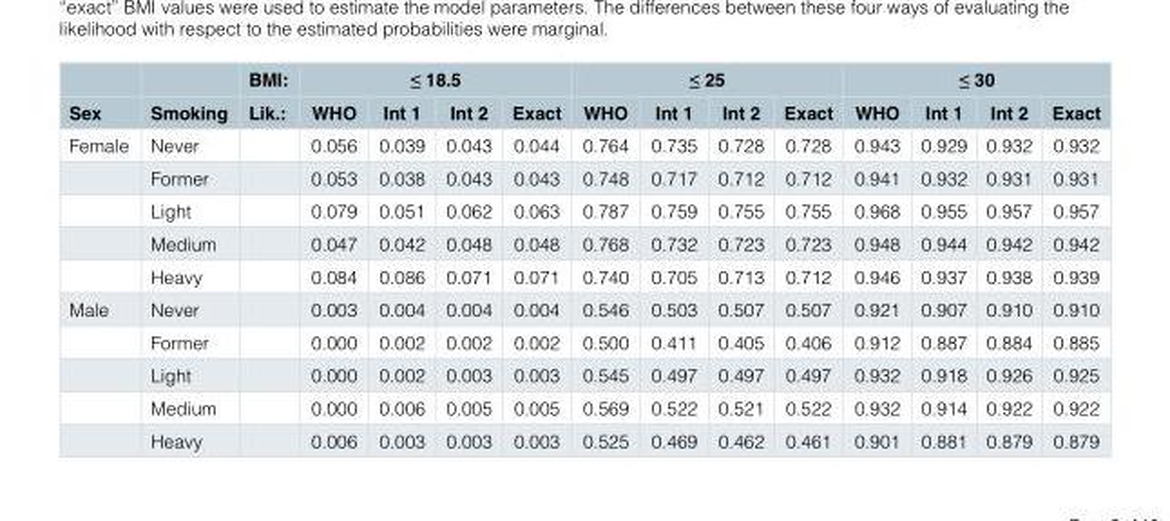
<table><thead><tr><td rowspan="2">Sex</td><td rowspan="2">Smoking</td><td rowspan="2">BMI: Lik.:</td><td colspan="4">≤ 18.5</td><td colspan="4">≤ 25</td><td colspan="4">≤ 30</td></tr><tr><td>WHO</td><td>Int 1</td><td>Int 2</td><td>Exact</td><td>WHO</td><td>Int 1</td><td>Int 2</td><td>Exact</td><td>WHO</td><td>Int 1</td><td>Int 2</td><td>Exact</td></tr></thead><tbody><tr><td rowspan="5">Female</td><td>Never</td><td></td><td>0.056</td><td>0.039</td><td>0.043</td><td>0.044</td><td>0.764</td><td>0.735</td><td>0.728</td><td>0.728</td><td>0.943</td><td>0.929</td><td>0.932</td><td>0.932</td></tr><tr><td>Former</td><td></td><td>0.053</td><td>0.038</td><td>0.043</td><td>0.043</td><td>0.748</td><td>0.717</td><td>0.712</td><td>0.712</td><td>0.941</td><td>0.932</td><td>0.931</td><td>0.931</td></tr><tr><td>Light</td><td></td><td>0.079</td><td>0.051</td><td>0.062</td><td>0.063</td><td>0.787</td><td>0.759</td><td>0.755</td><td>0.755</td><td>0.968</td><td>0.955</td><td>0.957</td><td>0.957</td></tr><tr><td>Medium</td><td></td><td>0.047</td><td>0.042</td><td>0.048</td><td>0.048</td><td>0.768</td><td>0.732</td><td>0.723</td><td>0.723</td><td>0.948</td><td>0.944</td><td>0.942</td><td>0.942</td></tr><tr><td>Heavy</td><td></td><td>0.084</td><td>0.086</td><td>0.071</td><td>0.071</td><td>0.740</td><td>0.705</td><td>0.713</td><td>0.712</td><td>0.946</td><td>0.937</td><td>0.938</td><td>0.939</td></tr><tr><td rowspan="5">Male</td><td>Never</td><td></td><td>0.003</td><td>0.004</td><td>0.004</td><td>0.004</td><td>0.546</td><td>0.503</td><td>0.507</td><td>0.507</td><td>0.921</td><td>0.907</td><td>0.910</td><td>0.910</td></tr><tr><td>Former</td><td></td><td>0.000</td><td>0.002</td><td>0.002</td><td>0.002</td><td>0.500</td><td>0.411</td><td>0.405</td><td>0.406</td><td>0.912</td><td>0.887</td><td>0.884</td><td>0.885</td></tr><tr><td>Light</td><td></td><td>0.000</td><td>0.002</td><td>0.003</td><td>0.003</td><td>0.545</td><td>0.497</td><td>0.497</td><td>0.497</td><td>0.932</td><td>0.918</td><td>0.926</td><td>0.925</td></tr><tr><td>Medium</td><td></td><td>0.000</td><td>0.006</td><td>0.005</td><td>0.005</td><td>0.569</td><td>0.522</td><td>0.521</td><td>0.522</td><td>0.932</td><td>0.914</td><td>0.922</td><td>0.922</td></tr><tr><td>Heavy</td><td></td><td>0.006</td><td>0.003</td><td>0.003</td><td>0.003</td><td>0.525</td><td>0.469</td><td>0.462</td><td>0.461</td><td>0.901</td><td>0.881</td><td>0.879</td><td>0.879</td></tr></tbody></table>